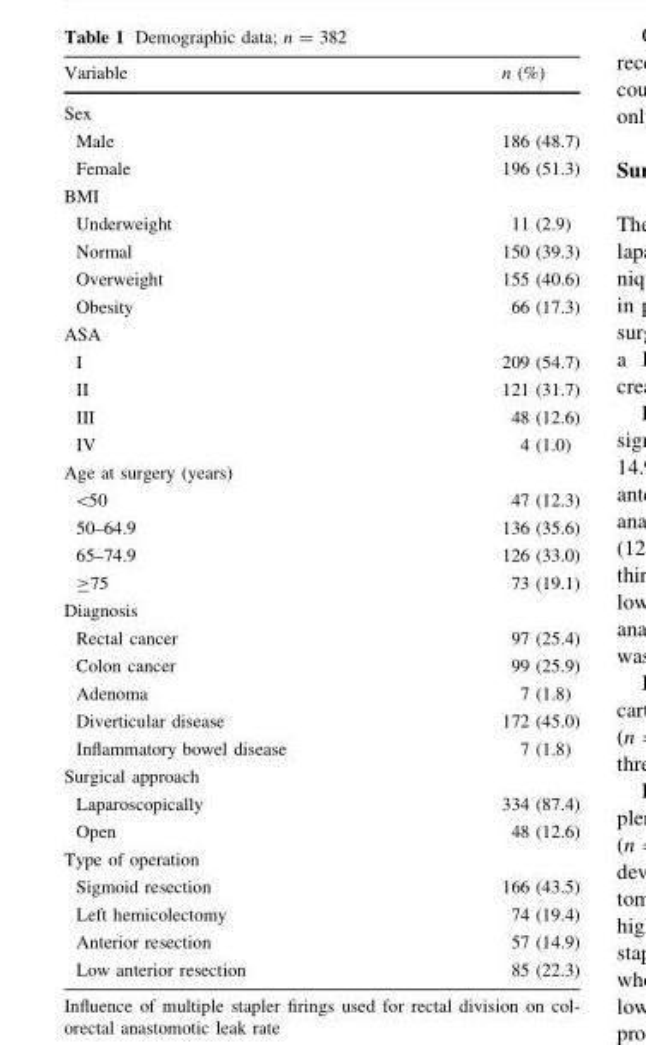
<table><thead><tr><td>Variable</td><td>n (%)</td></tr></thead><tbody><tr><td colspan="2">Sex</td></tr><tr><td>Male</td><td>186 (48.7)</td></tr><tr><td>Female</td><td>196 (51.3)</td></tr><tr><td colspan="2">BMI</td></tr><tr><td>Underweight</td><td>11 (2.9)</td></tr><tr><td>Normal</td><td>150 (39.3)</td></tr><tr><td>Overweight</td><td>155 (40.6)</td></tr><tr><td>Obesity</td><td>66 (17.3)</td></tr><tr><td colspan="2">ASA</td></tr><tr><td>I</td><td>209 (54.7)</td></tr><tr><td>II</td><td>121 (31.7)</td></tr><tr><td>III</td><td>48 (12.6)</td></tr><tr><td>IV</td><td>4 (1.0)</td></tr><tr><td colspan="2">Age at surgery (years)</td></tr><tr><td>&lt;50</td><td>47 (12.3)</td></tr><tr><td>50–64.9</td><td>136 (35.6)</td></tr><tr><td>65–74.9</td><td>126 (33.0)</td></tr><tr><td>≥75</td><td>73 (19.1)</td></tr><tr><td colspan="2">Diagnosis</td></tr><tr><td>Rectal cancer</td><td>97 (25.4)</td></tr><tr><td>Colon cancer</td><td>99 (25.9)</td></tr><tr><td>Adenoma</td><td>7 (1.8)</td></tr><tr><td>Diverticular disease</td><td>172 (45.0)</td></tr><tr><td>Inflammatory bowel disease</td><td>7 (1.8)</td></tr><tr><td colspan="2">Surgical approach</td></tr><tr><td>Laparoscopically</td><td>334 (87.4)</td></tr><tr><td>Open</td><td>48 (12.6)</td></tr><tr><td colspan="2">Type of operation</td></tr><tr><td>Sigmoid resection</td><td>166 (43.5)</td></tr><tr><td>Left hemicolectomy</td><td>74 (19.4)</td></tr><tr><td>Anterior resection</td><td>57 (14.9)</td></tr><tr><td>Low anterior resection</td><td>85 (22.3)</td></tr></tbody></table>